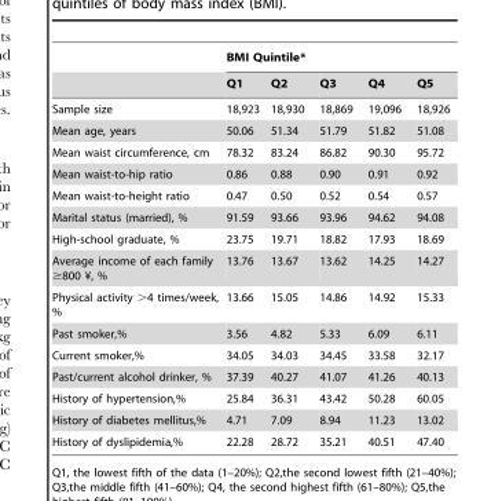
<table><thead><tr><td rowspan="2"></td><td colspan="5">BMI Quintile*</td></tr><tr><td>Q1</td><td>Q2</td><td>Q3</td><td>Q4</td><td>Q5</td></tr></thead><tbody><tr><td>Sample size</td><td>18,923</td><td>18,930</td><td>18,869</td><td>19,096</td><td>18,926</td></tr><tr><td>Mean age, years</td><td>50.06</td><td>51.34</td><td>51.79</td><td>51.82</td><td>51.08</td></tr><tr><td>Mean waist circumference, cm</td><td>78.32</td><td>83.24</td><td>86.82</td><td>90.30</td><td>95.72</td></tr><tr><td>Mean waist-to-hip ratio</td><td>0.86</td><td>0.88</td><td>0.90</td><td>0.91</td><td>0.92</td></tr><tr><td>Mean waist-to-height ratio</td><td>0.47</td><td>0.50</td><td>0.52</td><td>0.54</td><td>0.57</td></tr><tr><td>Marital status (married), %</td><td>91.59</td><td>93.66</td><td>93.96</td><td>94.62</td><td>94.08</td></tr><tr><td>High-school graduate, %</td><td>23.75</td><td>19.71</td><td>18.82</td><td>17.93</td><td>18.69</td></tr><tr><td>Average income of each family ≥800 ¥, %</td><td>13.76</td><td>13.67</td><td>13.62</td><td>14.25</td><td>14.27</td></tr><tr><td>Physical activity &gt;4 times/week, %</td><td>13.66</td><td>15.05</td><td>14.86</td><td>14.92</td><td>15.33</td></tr><tr><td>Past smoker,%</td><td>3.56</td><td>4.82</td><td>5.33</td><td>6.09</td><td>6.11</td></tr><tr><td>Current smoker,%</td><td>34.05</td><td>34.03</td><td>34.45</td><td>33.58</td><td>32.17</td></tr><tr><td>Past/current alcohol drinker, %</td><td>37.39</td><td>40.27</td><td>41.07</td><td>41.26</td><td>40.13</td></tr><tr><td>History of hypertension,%</td><td>25.84</td><td>36.31</td><td>43.42</td><td>50.28</td><td>60.05</td></tr><tr><td>History of diabetes mellitus,%</td><td>4.71</td><td>7.09</td><td>8.94</td><td>11.23</td><td>13.02</td></tr><tr><td>History of dyslipidemia,%</td><td>22.28</td><td>28.72</td><td>35.21</td><td>40.51</td><td>47.40</td></tr></tbody></table>